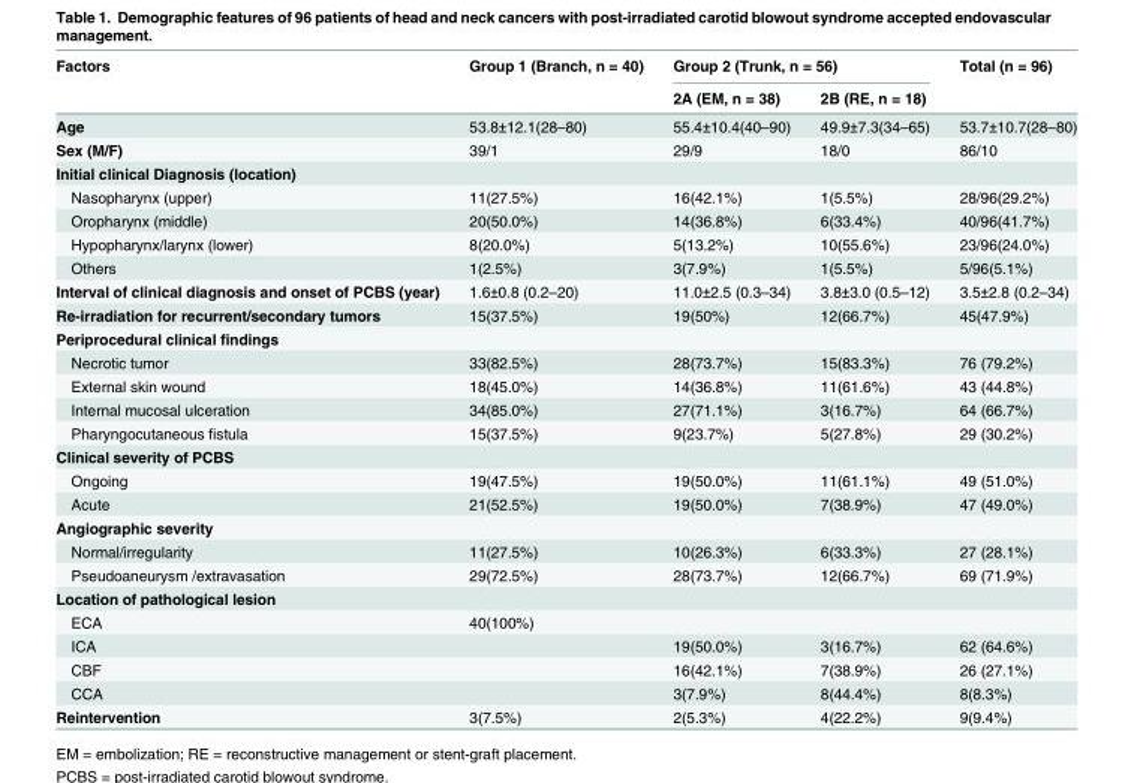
<table><thead><tr><td rowspan="2">Factors</td><td rowspan="2">Group 1 (Branch, n = 40)</td><td colspan="2">Group 2 (Trunk, n = 56)</td><td rowspan="2">Total (n = 96)</td></tr><tr><td>2A (EM, n = 38)</td><td>2B (RE, n = 18)</td></tr></thead><tbody><tr><td>Age</td><td>53.8±12.1(28–80)</td><td>55.4±10.4(40–90)</td><td>49.9±7.3(34–65)</td><td>53.7±10.7(28–80)</td></tr><tr><td>Sex (M/F)</td><td>39/1</td><td>29/9</td><td>18/0</td><td>86/10</td></tr><tr><td colspan="5">Initial clinical Diagnosis (location)</td></tr><tr><td>Nasopharynx (upper)</td><td>11(27.5%)</td><td>16(42.1%)</td><td>1(5.5%)</td><td>28/96(29.2%)</td></tr><tr><td>Oropharynx (middle)</td><td>20(50.0%)</td><td>14(36.8%)</td><td>6(33.4%)</td><td>40/96(41.7%)</td></tr><tr><td>Hypopharynx/larynx (lower)</td><td>8(20.0%)</td><td>5(13.2%)</td><td>10(55.6%)</td><td>23/96(24.0%)</td></tr><tr><td>Others</td><td>1(2.5%)</td><td>3(7.9%)</td><td>1(5.5%)</td><td>5/96(5.1%)</td></tr><tr><td>Interval of clinical diagnosis and onset of PCBS (year)</td><td>1.6±0.8 (0.2–20)</td><td>11.0±2.5 (0.3–34)</td><td>3.8±3.0 (0.5–12)</td><td>3.5±2.8 (0.2–34)</td></tr><tr><td>Re-irradiation for recurrent/secondary tumors</td><td>15(37.5%)</td><td>19(50%)</td><td>12(66.7%)</td><td>45(47.9%)</td></tr><tr><td colspan="5">Periprocedural clinical findings</td></tr><tr><td>Necrotic tumor</td><td>33(82.5%)</td><td>28(73.7%)</td><td>15(83.3%)</td><td>76 (79.2%)</td></tr><tr><td>External skin wound</td><td>18(45.0%)</td><td>14(36.8%)</td><td>11(61.6%)</td><td>43 (44.8%)</td></tr><tr><td>Internal mucosal ulceration</td><td>34(85.0%)</td><td>27(71.1%)</td><td>3(16.7%)</td><td>64 (66.7%)</td></tr><tr><td>Pharyngocutaneous fistula</td><td>15(37.5%)</td><td>9(23.7%)</td><td>5(27.8%)</td><td>29 (30.2%)</td></tr><tr><td colspan="5">Clinical severity of PCBS</td></tr><tr><td>Ongoing</td><td>19(47.5%)</td><td>19(50.0%)</td><td>11(61.1%)</td><td>49 (51.0%)</td></tr><tr><td>Acute</td><td>21(52.5%)</td><td>19(50.0%)</td><td>7(38.9%)</td><td>47 (49.0%)</td></tr><tr><td colspan="5">Angiographic severity</td></tr><tr><td>Normal/irregularity</td><td>11(27.5%)</td><td>10(26.3%)</td><td>6(33.3%)</td><td>27 (28.1%)</td></tr><tr><td>Pseudoaneurysm /extravasation</td><td>29(72.5%)</td><td>28(73.7%)</td><td>12(66.7%)</td><td>69 (71.9%)</td></tr><tr><td colspan="5">Location of pathological lesion</td></tr><tr><td>ECA</td><td>40(100%)</td><td></td><td></td><td></td></tr><tr><td>ICA</td><td></td><td>19(50.0%)</td><td>3(16.7%)</td><td>62 (64.6%)</td></tr><tr><td>CBF</td><td></td><td>16(42.1%)</td><td>7(38.9%)</td><td>26 (27.1%)</td></tr><tr><td>CCA</td><td></td><td>3(7.9%)</td><td>8(44.4%)</td><td>8(8.3%)</td></tr><tr><td>Reintervention</td><td>3(7.5%)</td><td>2(5.3%)</td><td>4(22.2%)</td><td>9(9.4%)</td></tr></tbody></table>